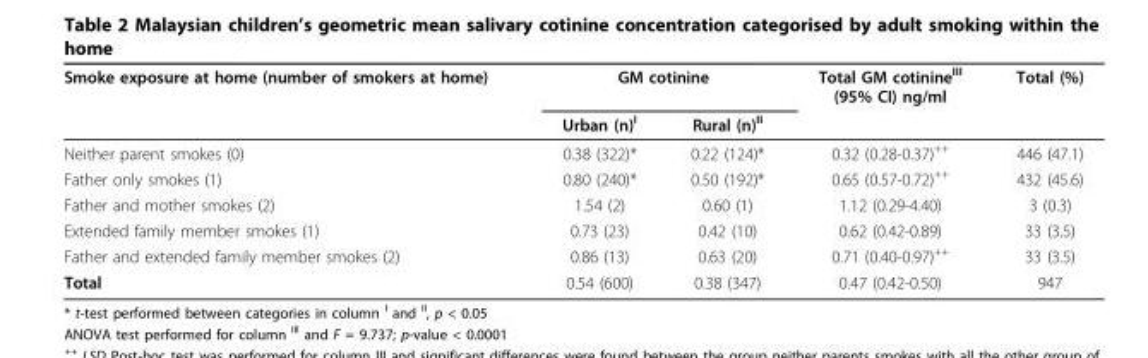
<table><thead><tr><td rowspan="2">Smoke exposure at home (number of smokers at home)</td><td colspan="2">GM cotinine</td><td rowspan="2">Total GM cotinine<sup>III</sup> (95% CI) ng/ml</td><td rowspan="2">Total (%)</td></tr><tr><td>Urban (n)<sup>I</sup></td><td>Rural (n)<sup>II</sup></td></tr></thead><tbody><tr><td>Neither parent smokes (0)</td><td>0.38 (322)*</td><td>0.22 (124)*</td><td>0.32 (0.28-0.37)<sup>++</sup></td><td>446 (47.1)</td></tr><tr><td>Father only smokes (1)</td><td>0.80 (240)*</td><td>0.50 (192)*</td><td>0.65 (0.57-0.72)<sup>++</sup></td><td>432 (45.6)</td></tr><tr><td>Father and mother smokes (2)</td><td>1.54 (2)</td><td>0.60 (1)</td><td>1.12 (0.29-4.40)</td><td>3 (0.3)</td></tr><tr><td>Extended family member smokes (1)</td><td>0.73 (23)</td><td>0.42 (10)</td><td>0.62 (0.42-0.89)</td><td>33 (3.5)</td></tr><tr><td>Father and extended family member smokes (2)</td><td>0.86 (13)</td><td>0.63 (20)</td><td>0.71 (0.40-0.97)<sup>++</sup></td><td>33 (3.5)</td></tr><tr><td>Total</td><td>0.54 (600)</td><td>0.38 (347)</td><td>0.47 (0.42-0.50)</td><td>947</td></tr></tbody></table>